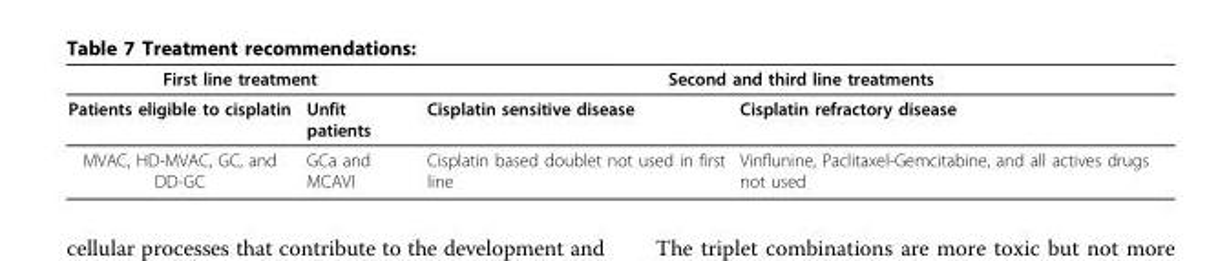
<table><thead><tr><td colspan="2">First line treatment</td><td colspan="2">Second and third line treatments</td></tr><tr><td>Patients eligible to cisplatin</td><td>Unfit patients</td><td>Cisplatin sensitive disease</td><td>Cisplatin refractory disease</td></tr></thead><tbody><tr><td>MVAC, HD-MVAC, GC, and DD-GC</td><td>GCa and MCAVI</td><td>Cisplatin based doublet not used in first line</td><td>Vinflunine, Paclitaxel-Gemcitabine, and all actives drugs not used</td></tr></tbody></table>